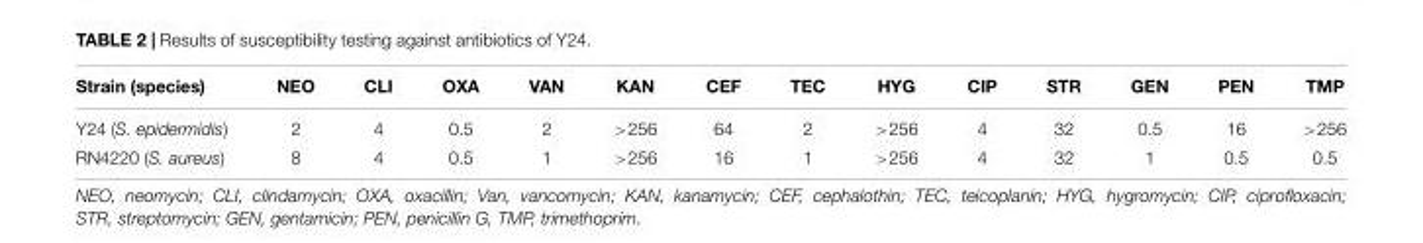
<table><thead><tr><td>Strain (species)</td><td>NEO</td><td>CLI</td><td>OXA</td><td>VAN</td><td>KAN</td><td>CEF</td><td>TEC</td><td>HYG</td><td>CIP</td><td>STR</td><td>GEN</td><td>PEN</td><td>TMP</td></tr></thead><tbody><tr><td>Y24 (S. epidermidis)</td><td>2</td><td>4</td><td>0.5</td><td>2</td><td>&gt;256</td><td>64</td><td>2</td><td>&gt;256</td><td>4</td><td>32</td><td>0.5</td><td>16</td><td>&gt;256</td></tr><tr><td>RN4220 (S. aureus)</td><td>8</td><td>4</td><td>0.5</td><td>1</td><td>&gt;256</td><td>16</td><td>1</td><td>&gt;256</td><td>4</td><td>32</td><td>1</td><td>0.5</td><td>0.5</td></tr></tbody></table>